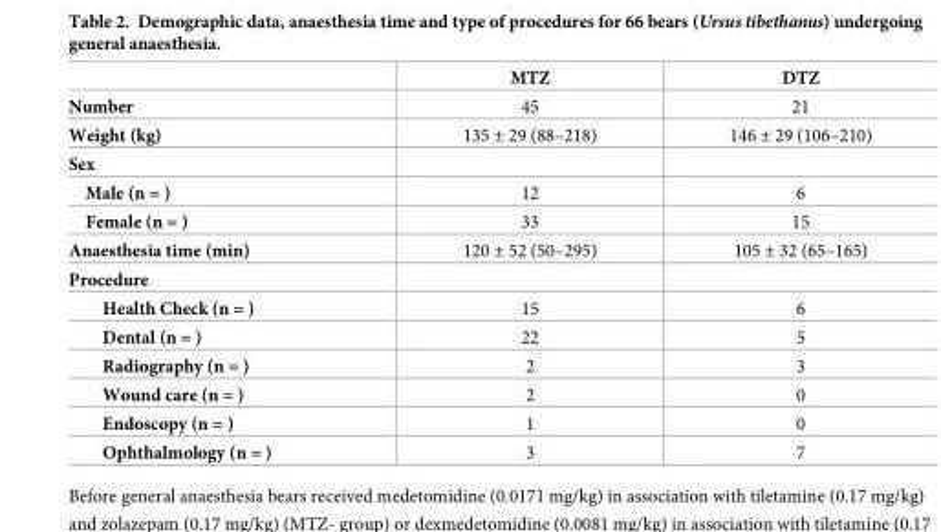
<table><thead><tr><td></td><td>MTZ</td><td>DTZ</td></tr></thead><tbody><tr><td>Number</td><td>45</td><td>21</td></tr><tr><td>Weight (kg)</td><td>135 ± 29 (88–218)</td><td>146 ± 29 (106–210)</td></tr><tr><td colspan="3">Sex</td></tr><tr><td>Male (n = )</td><td>12</td><td>6</td></tr><tr><td>Female (n = )</td><td>33</td><td>15</td></tr><tr><td>Anaesthesia time (min)</td><td>120 ± 52 (50–295)</td><td>105 ± 32 (65–165)</td></tr><tr><td colspan="3">Procedure</td></tr><tr><td>Health Check (n = )</td><td>15</td><td>6</td></tr><tr><td>Dental (n = )</td><td>22</td><td>5</td></tr><tr><td>Radiography (n = )</td><td>2</td><td>3</td></tr><tr><td>Wound care (n = )</td><td>2</td><td>0</td></tr><tr><td>Endoscopy (n = )</td><td>1</td><td>0</td></tr><tr><td>Ophthalmology (n = )</td><td>3</td><td>7</td></tr></tbody></table>